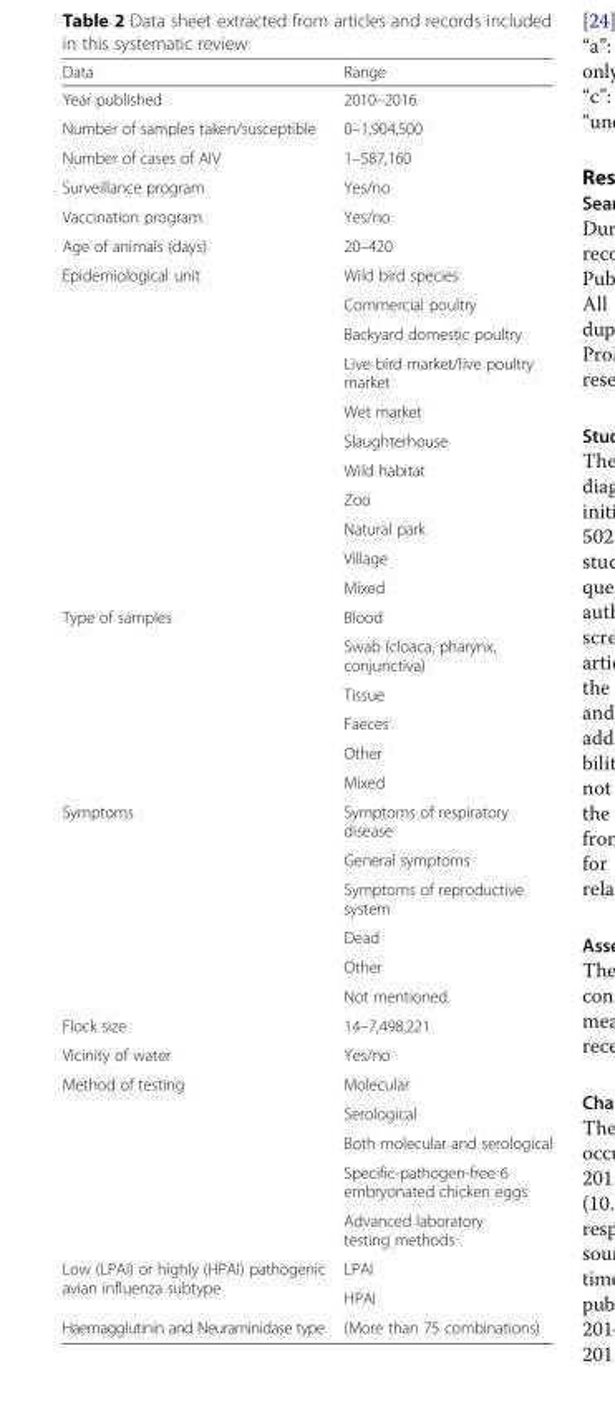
<table><thead><tr><td>Data</td><td>Range</td></tr></thead><tbody><tr><td>Year published</td><td>2010–2016</td></tr><tr><td>Number of samples taken/susceptible</td><td>0–1,904,500</td></tr><tr><td>Number of cases of AIV</td><td>1–587,160</td></tr><tr><td>Surveillance program</td><td>Yes/no</td></tr><tr><td>Vaccination program</td><td>Yes/no</td></tr><tr><td>Age of animals (days)</td><td>20–420</td></tr><tr><td rowspan="11">Epidemiological unit</td><td>Wild bird species</td></tr><tr><td>Commercial poultry</td></tr><tr><td>Backyard domestic poultry</td></tr><tr><td>Live bird market/live poultry market</td></tr><tr><td>Wet market</td></tr><tr><td>Slaughterhouse</td></tr><tr><td>Wild habitat</td></tr><tr><td>Zoo</td></tr><tr><td>Natural park</td></tr><tr><td>Village</td></tr><tr><td>Mixed</td></tr><tr><td rowspan="6">Type of samples</td><td>Blood</td></tr><tr><td>Swab (cloaca, pharynx, conjunctiva)</td></tr><tr><td>Tissue</td></tr><tr><td>Faeces</td></tr><tr><td>Other</td></tr><tr><td>Mixed</td></tr><tr><td rowspan="6">Symptoms</td><td>Symptoms of respiratory disease</td></tr><tr><td>General symptoms</td></tr><tr><td>Symptoms of reproductive system</td></tr><tr><td>Dead</td></tr><tr><td>Other</td></tr><tr><td>Not mentioned</td></tr><tr><td>Flock size</td><td>14–7,498,221</td></tr><tr><td>Vicinity of water</td><td>Yes/no</td></tr><tr><td rowspan="5">Method of testing</td><td>Molecular</td></tr><tr><td>Serological</td></tr><tr><td>Both molecular and serological</td></tr><tr><td>Specific-pathogen-free 6 embryonated chicken eggs</td></tr><tr><td>Advanced laboratory testing methods</td></tr><tr><td rowspan="2">Low (LPAI) or highly (HPAI) pathogenic avian influenza subtype</td><td>LPAI</td></tr><tr><td>HPAI</td></tr><tr><td>Haemagglutinin and Neuraminidase type</td><td>(More than 75 combinations)</td></tr></tbody></table>